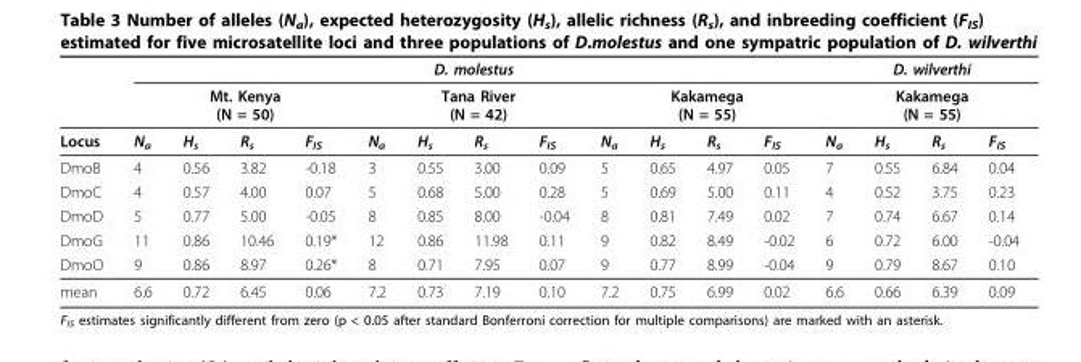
<table><thead><tr><td rowspan="3">Locus</td><td colspan="12">D. molestus</td><td rowspan="2" colspan="4">D. wilverthi Kakamega (N = 55)</td></tr><tr><td colspan="4">Mt. Kenya (N = 50)</td><td colspan="4">Tana River (N = 42)</td><td colspan="4">Kakamega (N = 55)</td></tr><tr><td>N<sub>a</sub></td><td>H<sub>s</sub></td><td>R<sub>s</sub></td><td>F<sub>IS</sub></td><td>N<sub>a</sub></td><td>H<sub>s</sub></td><td>R<sub>s</sub></td><td>F<sub>IS</sub></td><td>N<sub>a</sub></td><td>H<sub>s</sub></td><td>R<sub>s</sub></td><td>F<sub>IS</sub></td><td>N<sub>a</sub></td><td>H<sub>s</sub></td><td>R<sub>s</sub></td><td>F<sub>IS</sub></td></tr></thead><tbody><tr><td>DmoB</td><td>4</td><td>0.56</td><td>3.82</td><td>-0.18</td><td>3</td><td>0.55</td><td>3.00</td><td>0.09</td><td>5</td><td>0.65</td><td>4.97</td><td>0.05</td><td>7</td><td>0.55</td><td>6.84</td><td>0.04</td></tr><tr><td>DmoC</td><td>4</td><td>0.57</td><td>4.00</td><td>0.07</td><td>5</td><td>0.68</td><td>5.00</td><td>0.28</td><td>5</td><td>0.69</td><td>5.00</td><td>0.11</td><td>4</td><td>0.52</td><td>3.75</td><td>0.23</td></tr><tr><td>DmoD</td><td>5</td><td>0.77</td><td>5.00</td><td>-0.05</td><td>8</td><td>0.85</td><td>8.00</td><td>-0.04</td><td>8</td><td>0.81</td><td>7.49</td><td>0.02</td><td>7</td><td>0.74</td><td>6.67</td><td>0.14</td></tr><tr><td>DmoG</td><td>11</td><td>0.86</td><td>10.46</td><td>0.19*</td><td>12</td><td>0.86</td><td>11.98</td><td>0.11</td><td>9</td><td>0.82</td><td>8.49</td><td>-0.02</td><td>6</td><td>0.72</td><td>6.00</td><td>-0.04</td></tr><tr><td>DmoO</td><td>9</td><td>0.86</td><td>8.97</td><td>0.26*</td><td>8</td><td>0.71</td><td>7.95</td><td>0.07</td><td>9</td><td>0.77</td><td>8.99</td><td>-0.04</td><td>9</td><td>0.79</td><td>8.67</td><td>0.10</td></tr><tr><td>mean</td><td>6.6</td><td>0.72</td><td>6.45</td><td>0.06</td><td>7.2</td><td>0.73</td><td>7.19</td><td>0.10</td><td>7.2</td><td>0.75</td><td>6.99</td><td>0.02</td><td>6.6</td><td>0.66</td><td>6.39</td><td>0.09</td></tr></tbody></table>